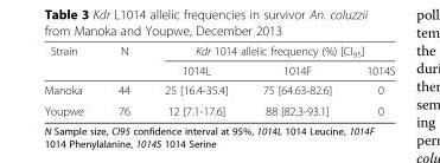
<table><thead><tr><td rowspan="2">Strain</td><td rowspan="2">N</td><td colspan="3">Kdr 1014 allelic frequency (%) [CI<sub>95</sub>]</td></tr><tr><td>1014L</td><td>1014F</td><td>1014S</td></tr></thead><tbody><tr><td>Manoka</td><td>44</td><td>25 [16.4-35.4]</td><td>75 [64.63-82.6]</td><td>0</td></tr><tr><td>Youpwe</td><td>76</td><td>12 [7.1-17.6]</td><td>88 [82.3-93.1]</td><td>0</td></tr></tbody></table>